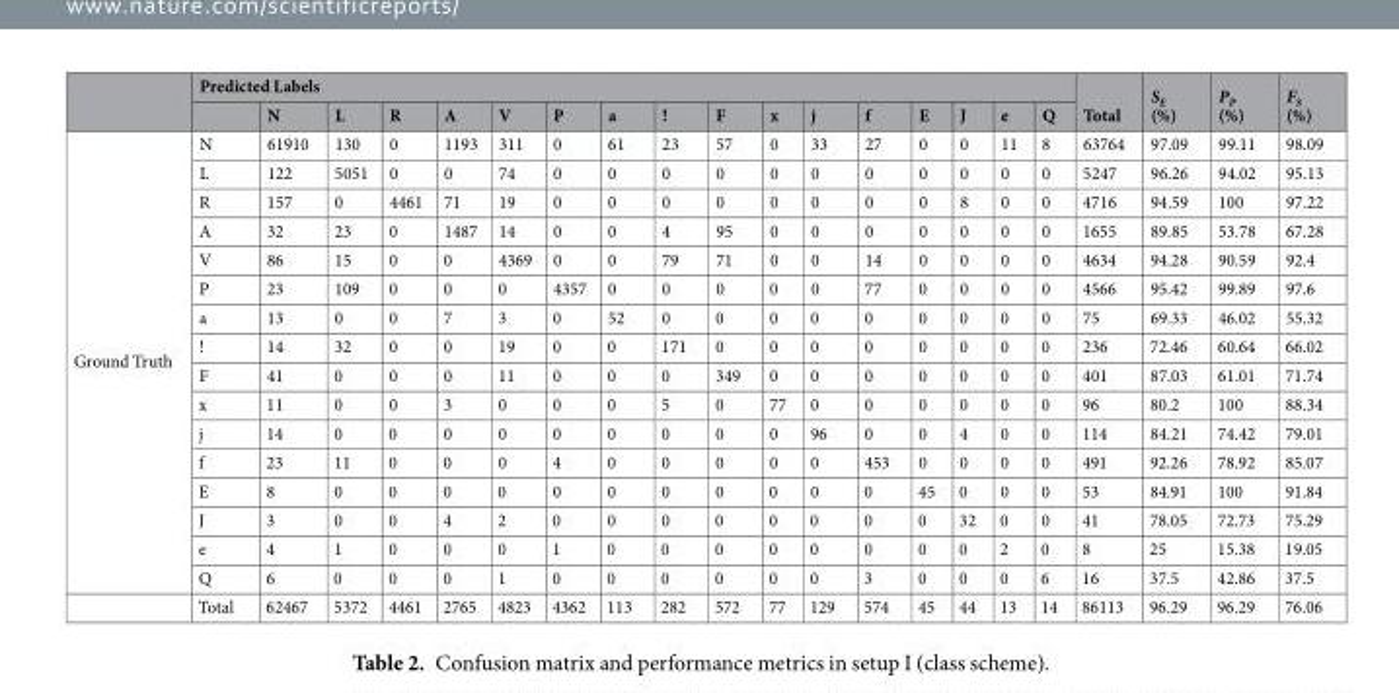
<table><thead><tr><td rowspan="2"></td><td colspan="17">Predicted Labels</td><td rowspan="2">Total</td><td rowspan="2">S<sub>E</sub> (%)</td><td rowspan="2">P<sub>P</sub> (%)</td><td rowspan="2">F<sub>S</sub> (%)</td></tr><tr><td></td><td>N</td><td>L</td><td>R</td><td>A</td><td>V</td><td>P</td><td>a</td><td>!</td><td>F</td><td>x</td><td>j</td><td>f</td><td>E</td><td>J</td><td>e</td><td>Q</td></tr></thead><tbody><tr><td rowspan="17">Ground Truth</td><td>N</td><td>61910</td><td>130</td><td>0</td><td>1193</td><td>311</td><td>0</td><td>61</td><td>23</td><td>57</td><td>0</td><td>33</td><td>27</td><td>0</td><td>0</td><td>11</td><td>8</td><td>63764</td><td>97.09</td><td>99.11</td><td>98.09</td></tr><tr><td>L</td><td>122</td><td>5051</td><td>0</td><td>0</td><td>74</td><td>0</td><td>0</td><td>0</td><td>0</td><td>0</td><td>0</td><td>0</td><td>0</td><td>0</td><td>0</td><td>0</td><td>5247</td><td>96.26</td><td>94.02</td><td>95.13</td></tr><tr><td>R</td><td>157</td><td>0</td><td>4461</td><td>71</td><td>19</td><td>0</td><td>0</td><td>0</td><td>0</td><td>0</td><td>0</td><td>0</td><td>0</td><td>8</td><td>0</td><td>0</td><td>4716</td><td>94.59</td><td>100</td><td>97.22</td></tr><tr><td>A</td><td>32</td><td>23</td><td>0</td><td>1487</td><td>14</td><td>0</td><td>0</td><td>4</td><td>95</td><td>0</td><td>0</td><td>0</td><td>0</td><td>0</td><td>0</td><td>0</td><td>1655</td><td>89.85</td><td>53.78</td><td>67.28</td></tr><tr><td>V</td><td>86</td><td>15</td><td>0</td><td>0</td><td>4369</td><td>0</td><td>0</td><td>79</td><td>71</td><td>0</td><td>0</td><td>14</td><td>0</td><td>0</td><td>0</td><td>0</td><td>4634</td><td>94.28</td><td>90.59</td><td>92.4</td></tr><tr><td>P</td><td>23</td><td>109</td><td>0</td><td>0</td><td>0</td><td>4357</td><td>0</td><td>0</td><td>0</td><td>0</td><td>0</td><td>77</td><td>0</td><td>0</td><td>0</td><td>0</td><td>4566</td><td>95.42</td><td>99.89</td><td>97.6</td></tr><tr><td>a</td><td>13</td><td>0</td><td>0</td><td>7</td><td>3</td><td>0</td><td>52</td><td>0</td><td>0</td><td>0</td><td>0</td><td>0</td><td>0</td><td>0</td><td>0</td><td>0</td><td>75</td><td>69.33</td><td>46.02</td><td>55.32</td></tr><tr><td>!</td><td>14</td><td>32</td><td>0</td><td>0</td><td>19</td><td>0</td><td>0</td><td>171</td><td>0</td><td>0</td><td>0</td><td>0</td><td>0</td><td>0</td><td>0</td><td>0</td><td>236</td><td>72.46</td><td>60.64</td><td>66.02</td></tr><tr><td>F</td><td>41</td><td>0</td><td>0</td><td>0</td><td>11</td><td>0</td><td>0</td><td>0</td><td>349</td><td>0</td><td>0</td><td>0</td><td>0</td><td>0</td><td>0</td><td>0</td><td>401</td><td>87.03</td><td>61.01</td><td>71.74</td></tr><tr><td>x</td><td>11</td><td>0</td><td>0</td><td>3</td><td>0</td><td>0</td><td>0</td><td>5</td><td>0</td><td>77</td><td>0</td><td>0</td><td>0</td><td>0</td><td>0</td><td>0</td><td>96</td><td>80.2</td><td>100</td><td>88.34</td></tr><tr><td>j</td><td>14</td><td>0</td><td>0</td><td>0</td><td>0</td><td>0</td><td>0</td><td>0</td><td>0</td><td>0</td><td>96</td><td>0</td><td>0</td><td>4</td><td>0</td><td>0</td><td>114</td><td>84.21</td><td>74.42</td><td>79.01</td></tr><tr><td>f</td><td>23</td><td>11</td><td>0</td><td>0</td><td>0</td><td>4</td><td>0</td><td>0</td><td>0</td><td>0</td><td>0</td><td>453</td><td>0</td><td>0</td><td>0</td><td>0</td><td>491</td><td>92.26</td><td>78.92</td><td>85.07</td></tr><tr><td>E</td><td>8</td><td>0</td><td>0</td><td>0</td><td>0</td><td>0</td><td>0</td><td>0</td><td>0</td><td>0</td><td>0</td><td>0</td><td>45</td><td>0</td><td>0</td><td>0</td><td>53</td><td>84.91</td><td>100</td><td>91.84</td></tr><tr><td>J</td><td>3</td><td>0</td><td>0</td><td>4</td><td>2</td><td>0</td><td>0</td><td>0</td><td>0</td><td>0</td><td>0</td><td>0</td><td>0</td><td>32</td><td>0</td><td>0</td><td>41</td><td>78.05</td><td>72.73</td><td>75.29</td></tr><tr><td>e</td><td>4</td><td>1</td><td>0</td><td>0</td><td>0</td><td>1</td><td>0</td><td>0</td><td>0</td><td>0</td><td>0</td><td>0</td><td>0</td><td>0</td><td>2</td><td>0</td><td>8</td><td>25</td><td>15.38</td><td>19.05</td></tr><tr><td>Q</td><td>6</td><td>0</td><td>0</td><td>0</td><td>1</td><td>0</td><td>0</td><td>0</td><td>0</td><td>0</td><td>0</td><td>3</td><td>0</td><td>0</td><td>0</td><td>6</td><td>16</td><td>37.5</td><td>42.86</td><td>37.5</td></tr><tr><td>Total</td><td>62467</td><td>5372</td><td>4461</td><td>2765</td><td>4823</td><td>4362</td><td>113</td><td>282</td><td>572</td><td>77</td><td>129</td><td>574</td><td>45</td><td>44</td><td>13</td><td>14</td><td>86113</td><td>96.29</td><td>96.29</td><td>76.06</td></tr></tbody></table>